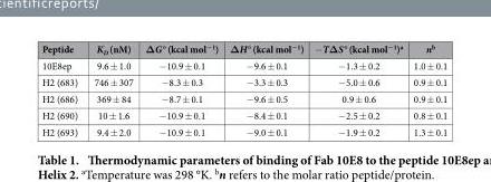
<table><thead><tr><td>Peptide</td><td>K<sub>D</sub> (nM)</td><td>ΔG° (kcal mol<sup>−1</sup>)</td><td>ΔH° (kcal mol<sup>−1</sup>)</td><td>−TΔS° (kcal mol<sup>−1</sup>)<sup>a</sup></td><td>n<sup>b</sup></td></tr></thead><tbody><tr><td>10E8ep</td><td>9.6 ± 1.0</td><td>− 10.9 ± 0.1</td><td>− 9.6 ± 0.1</td><td>− 1.3 ± 0.2</td><td>1.0 ± 0.1</td></tr><tr><td>H2 (683)</td><td>746 ± 307</td><td>− 8.3 ± 0.3</td><td>− 3.3 ± 0.3</td><td>− 5.0 ± 0.6</td><td>0.9 ± 0.1</td></tr><tr><td>H2 (686)</td><td>369 ± 84</td><td>− 8.7 ± 0.1</td><td>− 9.6 ± 0.5</td><td>0.9 ± 0.6</td><td>0.9 ± 0.1</td></tr><tr><td>H2 (690)</td><td>10 ± 1.6</td><td>− 10.9 ± 0.1</td><td>− 8.4 ± 0.1</td><td>− 2.5 ± 0.2</td><td>0.8 ± 0.1</td></tr><tr><td>H2 (693)</td><td>9.4 ± 2.0</td><td>− 10.9 ± 0.1</td><td>− 9.0 ± 0.1</td><td>− 1.9 ± 0.2</td><td>1.3 ± 0.1</td></tr></tbody></table>